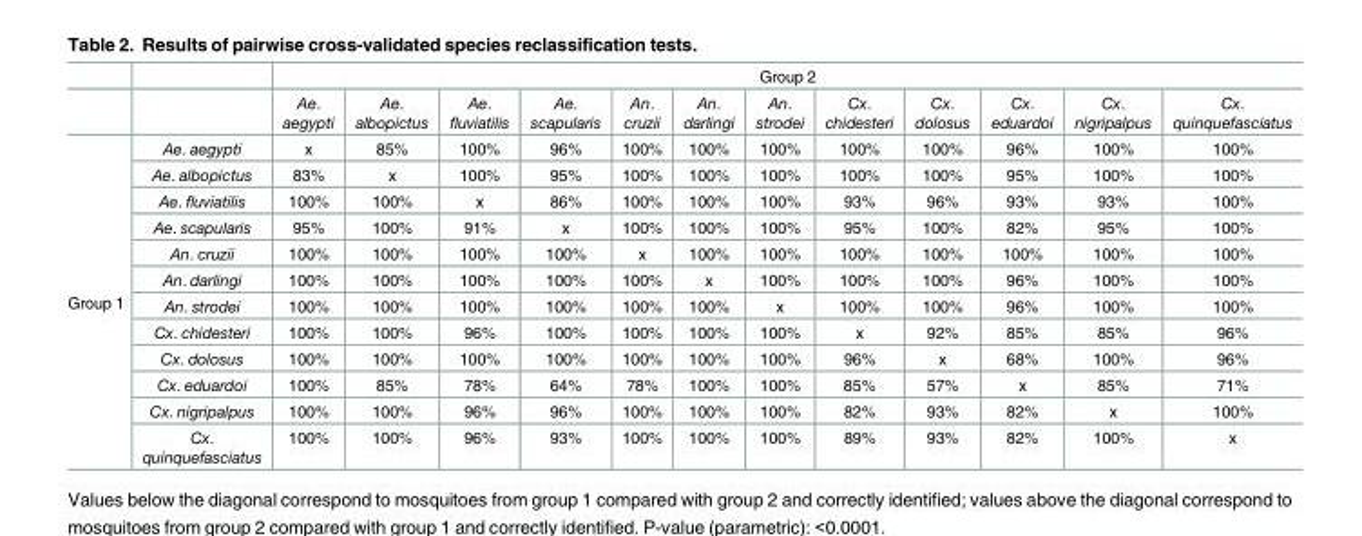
<table><thead><tr><td rowspan="2"></td><td rowspan="2"></td><td colspan="12">Group 2</td></tr><tr><td>Ae. aegypti</td><td>Ae. albopictus</td><td>Ae. fluviatilis</td><td>Ae. scapularis</td><td>An. cruzii</td><td>An. darlingi</td><td>An. strodei</td><td>Cx. chidesteri</td><td>Cx. dolosus</td><td>Cx. eduardoi</td><td>Cx. nigripalpus</td><td>Cx. quinquefasciatus</td></tr></thead><tbody><tr><td rowspan="12">Group 1</td><td>Ae. aegypti</td><td>x</td><td>85%</td><td>100%</td><td>96%</td><td>100%</td><td>100%</td><td>100%</td><td>100%</td><td>100%</td><td>96%</td><td>100%</td><td>100%</td></tr><tr><td>Ae. albopictus</td><td>83%</td><td>x</td><td>100%</td><td>95%</td><td>100%</td><td>100%</td><td>100%</td><td>100%</td><td>100%</td><td>95%</td><td>100%</td><td>100%</td></tr><tr><td>Ae. fluviatilis</td><td>100%</td><td>100%</td><td>x</td><td>86%</td><td>100%</td><td>100%</td><td>100%</td><td>93%</td><td>96%</td><td>93%</td><td>93%</td><td>100%</td></tr><tr><td>Ae. scapularis</td><td>95%</td><td>100%</td><td>91%</td><td>x</td><td>100%</td><td>100%</td><td>100%</td><td>95%</td><td>100%</td><td>82%</td><td>95%</td><td>100%</td></tr><tr><td>An. cruzii</td><td>100%</td><td>100%</td><td>100%</td><td>100%</td><td>x</td><td>100%</td><td>100%</td><td>100%</td><td>100%</td><td>100%</td><td>100%</td><td>100%</td></tr><tr><td>An. darlingi</td><td>100%</td><td>100%</td><td>100%</td><td>100%</td><td>100%</td><td>x</td><td>100%</td><td>100%</td><td>100%</td><td>96%</td><td>100%</td><td>100%</td></tr><tr><td>An. strodei</td><td>100%</td><td>100%</td><td>100%</td><td>100%</td><td>100%</td><td>100%</td><td>x</td><td>100%</td><td>100%</td><td>96%</td><td>100%</td><td>100%</td></tr><tr><td>Cx. chidesteri</td><td>100%</td><td>100%</td><td>96%</td><td>100%</td><td>100%</td><td>100%</td><td>100%</td><td>x</td><td>92%</td><td>85%</td><td>85%</td><td>96%</td></tr><tr><td>Cx. dolosus</td><td>100%</td><td>100%</td><td>100%</td><td>100%</td><td>100%</td><td>100%</td><td>100%</td><td>96%</td><td>x</td><td>68%</td><td>100%</td><td>96%</td></tr><tr><td>Cx. eduardoi</td><td>100%</td><td>85%</td><td>78%</td><td>64%</td><td>78%</td><td>100%</td><td>100%</td><td>85%</td><td>57%</td><td>x</td><td>85%</td><td>71%</td></tr><tr><td>Cx. nigripalpus</td><td>100%</td><td>100%</td><td>96%</td><td>96%</td><td>100%</td><td>100%</td><td>100%</td><td>82%</td><td>93%</td><td>82%</td><td>x</td><td>100%</td></tr><tr><td>Cx. quinquefasciatus</td><td>100%</td><td>100%</td><td>96%</td><td>93%</td><td>100%</td><td>100%</td><td>100%</td><td>89%</td><td>93%</td><td>82%</td><td>100%</td><td>x</td></tr></tbody></table>